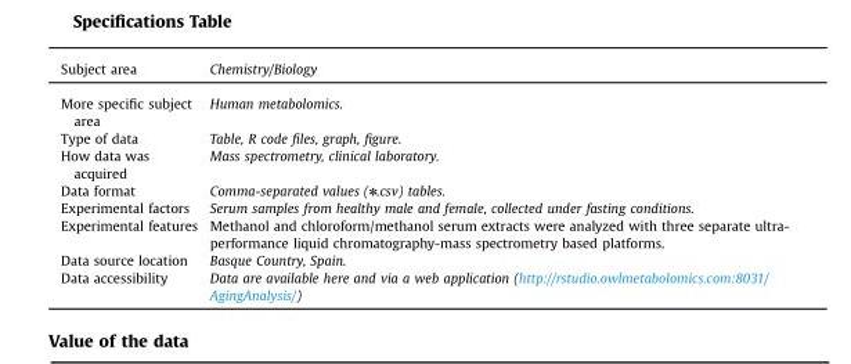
<table><tbody><tr><td>Subject area</td><td>Chemistry/Biology</td></tr><tr><td>More specific subject area</td><td>Human metabolomics.</td></tr><tr><td>Type of data</td><td>Table, R code files, graph, figure.</td></tr><tr><td>How data was acquired</td><td>Mass spectrometry, clinical laboratory.</td></tr><tr><td>Data format</td><td>Comma-separated values (⁎.csv) tables.</td></tr><tr><td>Experimental factors</td><td>Serum samples from healthy male and female, collected under fasting conditions.</td></tr><tr><td>Experimental features</td><td>Methanol and chloroform/methanol serum extracts were analyzed with three separate ultra- performance liquid chromatography-mass spectrometry based platforms.</td></tr><tr><td>Data source location</td><td>Basque Country, Spain.</td></tr><tr><td>Data accessibility</td><td>Data are available here and via a web application (http://rstudio.owlmetabolomics.com:8031/ AgingAnalysis/)</td></tr></tbody></table>